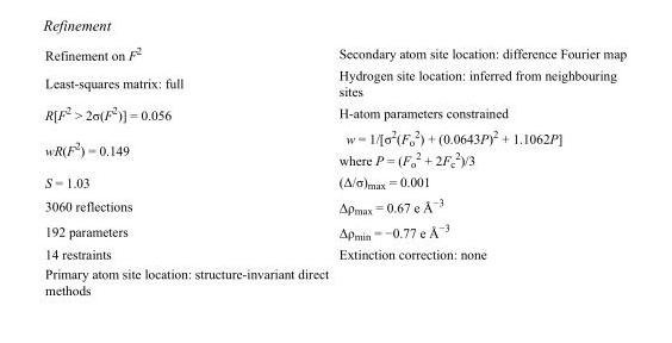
<table><tbody><tr><td>Refinement on F<sup>2</sup></td><td>Secondary atom site location: difference Fourier map</td></tr><tr><td>Least-squares matrix: full</td><td>Hydrogen site location: inferred from neighbouring sites</td></tr><tr><td>R[F<sup>2</sup> &gt; 2σ(F<sup>2</sup>)] = 0.056</td><td>H-atom parameters constrained</td></tr><tr><td>wR(F<sup>2</sup>) = 0.149</td><td>w = 1/[σ<sup>2</sup>(F<sub>o</sub> <sup>2</sup>) + (0.0643P)<sup>2</sup> + 1.1062P] where P = (F<sub>o</sub> <sup>2</sup> + 2F<sub>c</sub> <sup>2</sup>)/3</td></tr><tr><td>S = 1.03</td><td>(Δ/σ)<sub>max</sub> = 0.001</td></tr><tr><td>3060 reflections</td><td>Δρ<sub>max</sub> = 0.67 e Å<sup>−3</sup></td></tr><tr><td>192 parameters</td><td>Δρ<sub>min</sub> = −0.77 e Å<sup>−3</sup></td></tr><tr><td>14 restraints</td><td>Extinction correction: none</td></tr><tr><td>Primary atom site location: structure-invariant direct methods</td><td></td></tr></tbody></table>